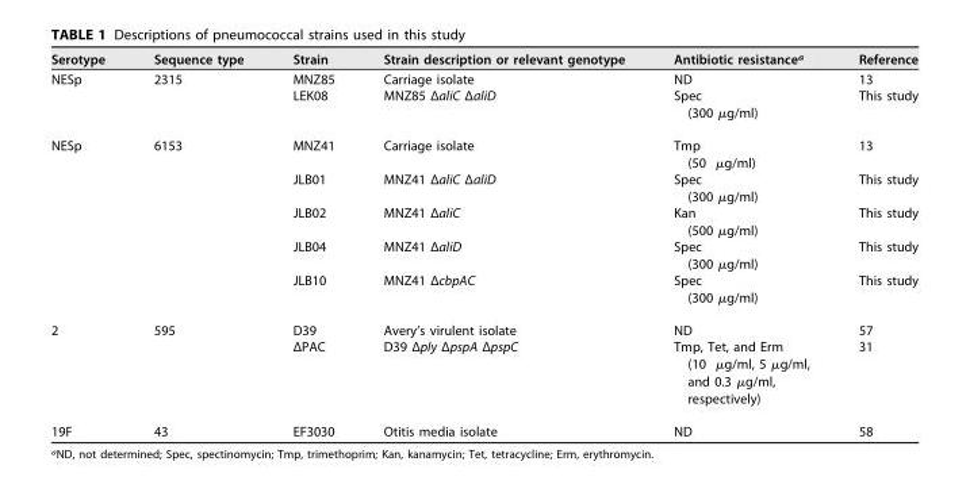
<table><thead><tr><td>Serotype</td><td>Sequence type</td><td>Strain</td><td>Strain description or relevant genotype</td><td>Antibiotic resistance<sup>a</sup></td><td>Reference</td></tr></thead><tbody><tr><td rowspan="2">NESp</td><td>2315</td><td>MNZ85</td><td>Carriage isolate</td><td>ND</td><td>13</td></tr><tr><td></td><td>LEK08</td><td>MNZ85 ΔaliC ΔaliD</td><td>Spec (300 µg/ml)</td><td>This study</td></tr><tr><td rowspan="5">NESp</td><td>6153</td><td>MNZ41</td><td>Carriage isolate</td><td>Tmp (50 µg/ml)</td><td>13</td></tr><tr><td></td><td>JLB01</td><td>MNZ41 ΔaliC ΔaliD</td><td>Spec (300 µg/ml)</td><td>This study</td></tr><tr><td></td><td>JLB02</td><td>MNZ41 ΔaliC</td><td>Kan (500 µg/ml)</td><td>This study</td></tr><tr><td></td><td>JLB04</td><td>MNZ41 ΔaliD</td><td>Spec (300 µg/ml)</td><td>This study</td></tr><tr><td></td><td>JLB10</td><td>MNZ41 ΔcbpAC</td><td>Spec (300 µg/ml)</td><td>This study</td></tr><tr><td rowspan="2">2</td><td>595</td><td>D39</td><td>Avery’s virulent isolate</td><td>ND</td><td>57</td></tr><tr><td></td><td>ΔPAC</td><td>D39 Δply ΔpspA ΔpspC</td><td>Tmp, Tet, and Erm (10 µg/ml, 5 µg/ml, and 0.3 µg/ml, respectively)</td><td>31</td></tr><tr><td>19F</td><td>43</td><td>EF3030</td><td>Otitis media isolate</td><td>ND</td><td>58</td></tr></tbody></table>